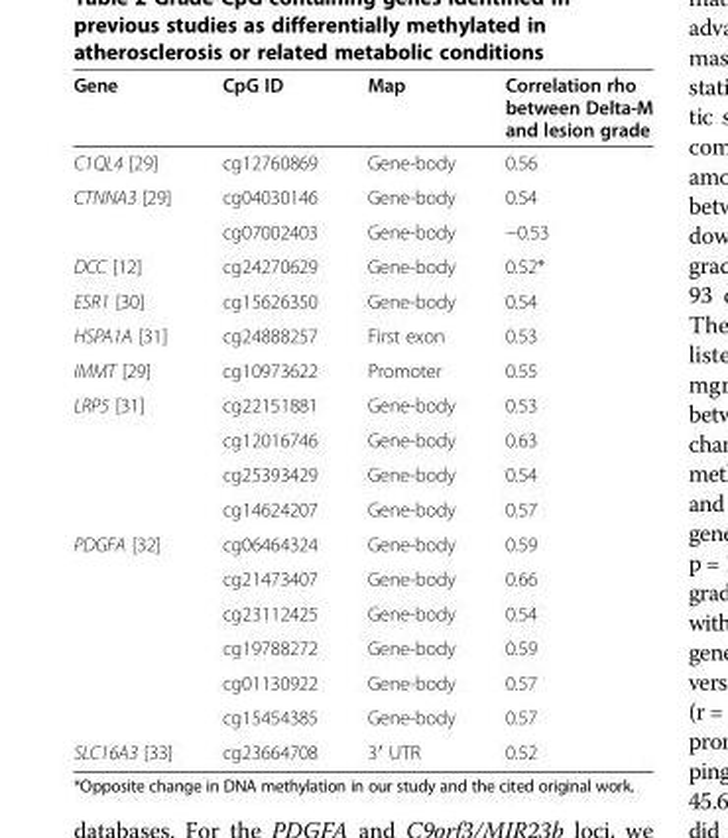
<table><thead><tr><td>Gene</td><td>CpG ID</td><td>Map</td><td>Correlation rho between Delta-M and lesion grade</td></tr></thead><tbody><tr><td>C1QL4 [29]</td><td>cg12760869</td><td>Gene-body</td><td>0.56</td></tr><tr><td rowspan="2">CTNNA3 [29]</td><td>cg04030146</td><td>Gene-body</td><td>0.54</td></tr><tr><td>cg07002403</td><td>Gene-body</td><td>−0.53</td></tr><tr><td>DCC [12]</td><td>cg24270629</td><td>Gene-body</td><td>0.52*</td></tr><tr><td>ESR1 [30]</td><td>cg15626350</td><td>Gene-body</td><td>0.54</td></tr><tr><td>HSPA1A [31]</td><td>cg24888257</td><td>First exon</td><td>0.53</td></tr><tr><td>IMMT [29]</td><td>cg10973622</td><td>Promoter</td><td>0.55</td></tr><tr><td rowspan="4">LRP5 [31]</td><td>cg22151881</td><td>Gene-body</td><td>0.53</td></tr><tr><td>cg12016746</td><td>Gene-body</td><td>0.63</td></tr><tr><td>cg25393429</td><td>Gene-body</td><td>0.54</td></tr><tr><td>cg14624207</td><td>Gene-body</td><td>0.57</td></tr><tr><td rowspan="6">PDGFA [32]</td><td>cg06464324</td><td>Gene-body</td><td>0.59</td></tr><tr><td>cg21473407</td><td>Gene-body</td><td>0.66</td></tr><tr><td>cg23112425</td><td>Gene-body</td><td>0.54</td></tr><tr><td>cg19788272</td><td>Gene-body</td><td>0.59</td></tr><tr><td>cg01130922</td><td>Gene-body</td><td>0.57</td></tr><tr><td>cg15454385</td><td>Gene-body</td><td>0.57</td></tr><tr><td>SLC16A3 [33]</td><td>cg23664708</td><td>3′ UTR</td><td>0.52</td></tr></tbody></table>